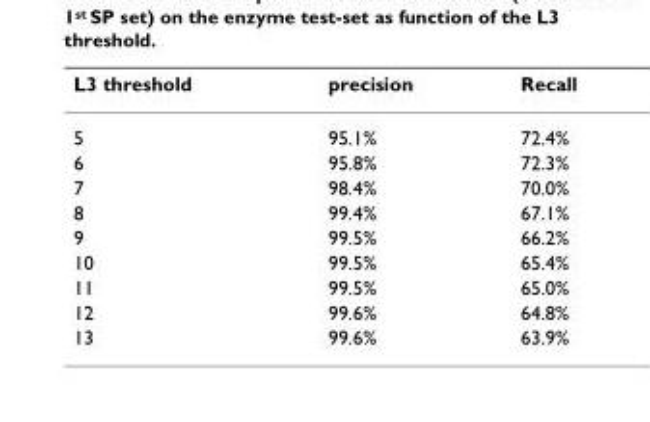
<table><thead><tr><td>L3 threshold</td><td>precision</td><td>Recall</td></tr></thead><tbody><tr><td>5</td><td>95.1%</td><td>72.4%</td></tr><tr><td>6</td><td>95.8%</td><td>72.3%</td></tr><tr><td>7</td><td>98.4%</td><td>70.0%</td></tr><tr><td>8</td><td>99.4%</td><td>67.1%</td></tr><tr><td>9</td><td>99.5%</td><td>66.2%</td></tr><tr><td>10</td><td>99.5%</td><td>65.4%</td></tr><tr><td>11</td><td>99.5%</td><td>65.0%</td></tr><tr><td>12</td><td>99.6%</td><td>64.8%</td></tr><tr><td>13</td><td>99.6%</td><td>63.9%</td></tr></tbody></table>